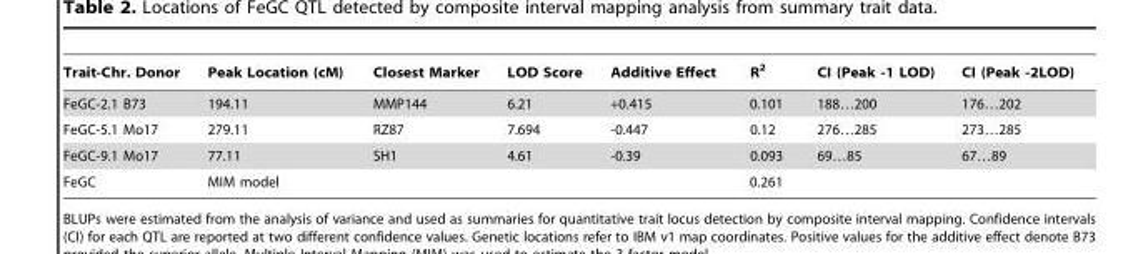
<table><thead><tr><td>Trait-Chr. Donor</td><td>Peak Location (cM)</td><td>Closest Marker</td><td>LOD Score</td><td>Additive Effect</td><td>R<sup>2</sup></td><td>CI (Peak -1 LOD)</td><td>CI (Peak -2LOD)</td></tr></thead><tbody><tr><td>FeGC-2.1 B73</td><td>194.11</td><td>MMP144</td><td>6.21</td><td>+0.415</td><td>0.101</td><td>188…200</td><td>176…202</td></tr><tr><td>FeGC-5.1 Mo17</td><td>279.11</td><td>RZ87</td><td>7.694</td><td>-0.447</td><td>0.12</td><td>276…285</td><td>273…285</td></tr><tr><td>FeGC-9.1 Mo17</td><td>77.11</td><td>SH1</td><td>4.61</td><td>-0.39</td><td>0.093</td><td>69…85</td><td>67…89</td></tr><tr><td>FeGC</td><td>MIM model</td><td></td><td></td><td></td><td>0.261</td><td></td><td></td></tr></tbody></table>